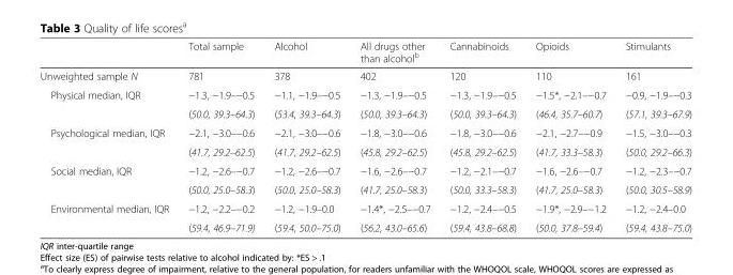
<table><thead><tr><td></td><td>Total sample</td><td>Alcohol</td><td>All drugs other than alcohol<sup>b</sup></td><td>Cannabinoids</td><td>Opioids</td><td>Stimulants</td></tr></thead><tbody><tr><td>Unweighted sample N</td><td>781</td><td>378</td><td>402</td><td>120</td><td>110</td><td>161</td></tr><tr><td rowspan="2">Physical median, IQR</td><td>−1.3, −1.9–−0.5</td><td>−1.1, −1.9–−0.5</td><td>−1.3, −1.9–−0.5</td><td>−1.3, −1.9–−0.5</td><td>−1.5*, −2.1–−0.7</td><td>−0.9, −1.9–−0.3</td></tr><tr><td>(50.0, 39.3–64.3)</td><td>(53.4, 39.3–64.3)</td><td>(50.0, 39.3–64.3)</td><td>(50.0, 39.3–64.3)</td><td>(46.4, 35.7–60.7)</td><td>(57.1, 39.3–67.9)</td></tr><tr><td rowspan="2">Psychological median, IQR</td><td>−2.1, −3.0–−0.6</td><td>−2.1, −3.0–−0.6</td><td>−1.8, −3.0–−0.6</td><td>−1.8, −3.0–−0.6</td><td>−2.1, −2.7–−0.9</td><td>−1.5, −3.0–−0.3</td></tr><tr><td>(41.7, 29.2–62.5)</td><td>(41.7, 29.2–62.5)</td><td>(45.8, 29.2–62.5)</td><td>(45.8, 29.2–62.5)</td><td>(41.7, 33.3–58.3)</td><td>(50.0, 29.2–66.3)</td></tr><tr><td rowspan="2">Social median, IQR</td><td>−1.2, −2.6–−0.7</td><td>−1.2, −2.6–−0.7</td><td>−1.6, −2.6–−0.7</td><td>−1.2, −2.1–−0.7</td><td>−1.6, −2.6–−0.7</td><td>−1.2, −2.3–−0.7</td></tr><tr><td>(50.0, 25.0–58.3)</td><td>(50.0, 25.0–58.3)</td><td>(41.7, 25.0–58.3)</td><td>(50.0, 33.3–58.3)</td><td>(41.7, 25.0–58.3)</td><td>(50.0, 30.5–58.9)</td></tr><tr><td rowspan="2">Environmental median, IQR</td><td>−1.2, −2.2–−0.2</td><td>−1.2, −1.9–0.0</td><td>−1.4*, −2.5–−0.7</td><td>−1.2, −2.4–−0.5</td><td>−1.9*, −2.9–−1.2</td><td>−1.2, −2.4–0.0</td></tr><tr><td>(59.4, 46.9–71.9)</td><td>(59.4, 50.0–75.0)</td><td>(56.2, 43.0–65.6)</td><td>(59.4, 43.8–68.8)</td><td>(50.0, 37.8–59.4)</td><td>(59.4, 43.8–75.0)</td></tr></tbody></table>